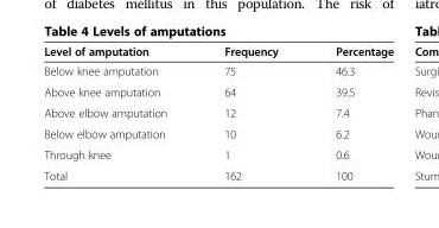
<table><thead><tr><td>Level of amputation</td><td>Frequency</td><td>Percentage</td></tr></thead><tbody><tr><td>Below knee amputation</td><td>75</td><td>46.3</td></tr><tr><td>Above knee amputation</td><td>64</td><td>39.5</td></tr><tr><td>Above elbow amputation</td><td>12</td><td>7.4</td></tr><tr><td>Below elbow amputation</td><td>10</td><td>6.2</td></tr><tr><td>Through knee</td><td>1</td><td>0.6</td></tr><tr><td>Total</td><td>162</td><td>100</td></tr></tbody></table>